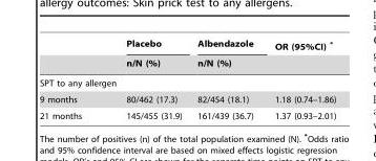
<table><thead><tr><td rowspan="2"></td><td rowspan="2">Placebo n/N (%)</td><td rowspan="2">Albendazole n/N (%)</td><td rowspan="2">OR (95%CI) *</td></tr><tr></tr></thead><tbody><tr><td colspan="4">SPT to any allergen</td></tr><tr><td>9 months</td><td>80/462 (17.3)</td><td>82/454 (18.1)</td><td>1.18 (0.74–1.86)</td></tr><tr><td>21 months</td><td>145/455 (31.9)</td><td>161/439 (36.7)</td><td>1.37 (0.93–2.01)</td></tr></tbody></table>